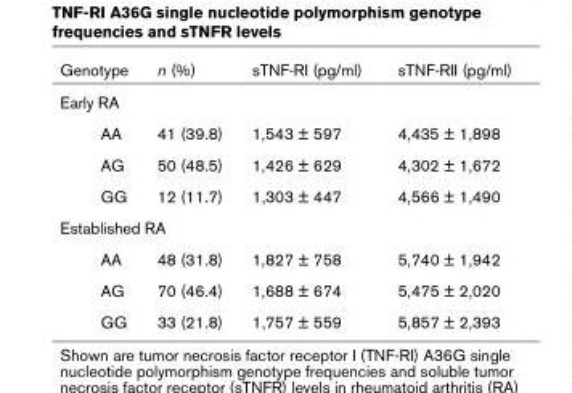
<table><thead><tr><td>Genotype</td><td>n (%)</td><td>sTNF-RI (pg/ml)</td><td>sTNF-RII (pg/ml)</td></tr></thead><tbody><tr><td colspan="4">Early RA</td></tr><tr><td>AA</td><td>41 (39.8)</td><td>1,543 ± 597</td><td>4,435 ± 1,898</td></tr><tr><td>AG</td><td>50 (48.5)</td><td>1,426 ± 629</td><td>4,302 ± 1,672</td></tr><tr><td>GG</td><td>12 (11.7)</td><td>1,303 ± 447</td><td>4,566 ± 1,490</td></tr><tr><td colspan="4">Established RA</td></tr><tr><td>AA</td><td>48 (31.8)</td><td>1,827 ± 758</td><td>5,740 ± 1,942</td></tr><tr><td>AG</td><td>70 (46.4)</td><td>1,688 ± 674</td><td>5,475 ± 2,020</td></tr><tr><td>GG</td><td>33 (21.8)</td><td>1,757 ± 559</td><td>5,857 ± 2,393</td></tr></tbody></table>